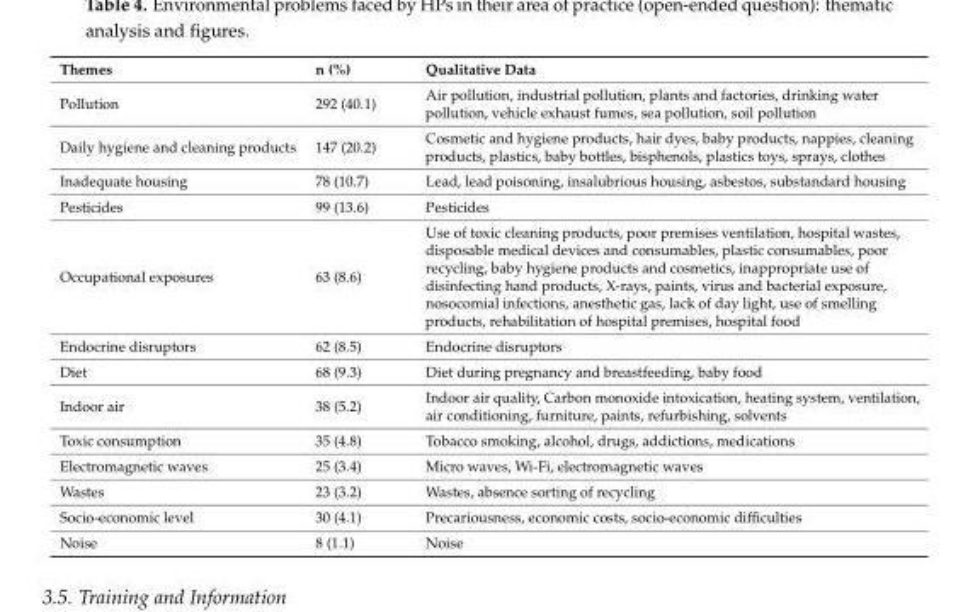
<table><thead><tr><td>Themes</td><td>n (%)</td><td>Qualitative Data</td></tr></thead><tbody><tr><td>Pollution</td><td>292 (40.1)</td><td>Air pollution, industrial pollution, plants and factories, drinking water pollution, vehicle exhaust fumes, sea pollution, soil pollution</td></tr><tr><td>Daily hygiene and cleaning products</td><td>147 (20.2)</td><td>Cosmetic and hygiene products, hair dyes, baby products, nappies, cleaning products, plastics, baby bottles, bisphenols, plastics toys, sprays, clothes</td></tr><tr><td>Inadequate housing</td><td>78 (10.7)</td><td>Lead, lead poisoning, insalubrious housing, asbestos, substandard housing</td></tr><tr><td>Pesticides</td><td>99 (13.6)</td><td>Pesticides</td></tr><tr><td>Occupational exposures</td><td>63 (8.6)</td><td>Use of toxic cleaning products, poor premises ventilation, hospital wastes, disposable medical devices and consumables, plastic consumables, poor recycling, baby hygiene products and cosmetics, inappropriate use of disinfecting hand products, X-rays, paints, virus and bacterial exposure, nosocomial infections, anesthetic gas, lack of day light, use of smelling products, rehabilitation of hospital premises, hospital food</td></tr><tr><td>Endocrine disruptors</td><td>62 (8.5)</td><td>Endocrine disruptors</td></tr><tr><td>Diet</td><td>68 (9.3)</td><td>Diet during pregnancy and breastfeeding, baby food</td></tr><tr><td>Indoor air</td><td>38 (5.2)</td><td>Indoor air quality, Carbon monoxide intoxication, heating system, ventilation, air conditioning, furniture, paints, refurbishing, solvents</td></tr><tr><td>Toxic consumption</td><td>35 (4.8)</td><td>Tobacco smoking, alcohol, drugs, addictions, medications</td></tr><tr><td>Electromagnetic waves</td><td>25 (3.4)</td><td>Micro waves, Wi-Fi, electromagnetic waves</td></tr><tr><td>Wastes</td><td>23 (3.2)</td><td>Wastes, absence sorting of recycling</td></tr><tr><td>Socio-economic level</td><td>30 (4.1)</td><td>Precariousness, economic costs, socio-economic difficulties</td></tr><tr><td>Noise</td><td>8 (1.1)</td><td>Noise</td></tr></tbody></table>